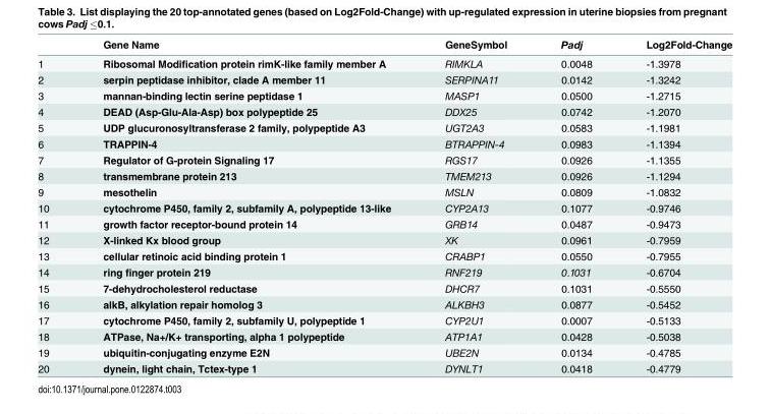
<table><thead><tr><td></td><td>Gene Name</td><td>GeneSymbol</td><td>Padj</td><td>Log2Fold-Change</td></tr></thead><tbody><tr><td>1</td><td>Ribosomal Modification protein rimK-like family member A</td><td>RIMKLA</td><td>0.0048</td><td>-1.3978</td></tr><tr><td>2</td><td>serpin peptidase inhibitor, clade A member 11</td><td>SERPINA11</td><td>0.0142</td><td>-1.3242</td></tr><tr><td>3</td><td>mannan-binding lectin serine peptidase 1</td><td>MASP1</td><td>0.0500</td><td>-1.2715</td></tr><tr><td>4</td><td>DEAD (Asp-Glu-Ala-Asp) box polypeptide 25</td><td>DDX25</td><td>0.0742</td><td>-1.2070</td></tr><tr><td>5</td><td>UDP glucuronosyltransferase 2 family, polypeptide A3</td><td>UGT2A3</td><td>0.0583</td><td>-1.1981</td></tr><tr><td>6</td><td>TRAPPIN-4</td><td>BTRAPPIN-4</td><td>0.0983</td><td>-1.1394</td></tr><tr><td>7</td><td>Regulator of G-protein Signaling 17</td><td>RGS17</td><td>0.0926</td><td>-1.1355</td></tr><tr><td>8</td><td>transmembrane protein 213</td><td>TMEM213</td><td>0.0926</td><td>-1.1294</td></tr><tr><td>9</td><td>mesothelin</td><td>MSLN</td><td>0.0809</td><td>-1.0832</td></tr><tr><td>10</td><td>cytochrome P450, family 2, subfamily A, polypeptide 13-like</td><td>CYP2A13</td><td>0.1077</td><td>-0.9746</td></tr><tr><td>11</td><td>growth factor receptor-bound protein 14</td><td>GRB14</td><td>0.0487</td><td>-0.9473</td></tr><tr><td>12</td><td>X-linked Kx blood group</td><td>XK</td><td>0.0961</td><td>-0.7959</td></tr><tr><td>13</td><td>cellular retinoic acid binding protein 1</td><td>CRABP1</td><td>0.0550</td><td>-0.7955</td></tr><tr><td>14</td><td>ring finger protein 219</td><td>RNF219</td><td>0.1031</td><td>-0.6704</td></tr><tr><td>15</td><td>7-dehydrocholesterol reductase</td><td>DHCR7</td><td>0.1031</td><td>-0.5550</td></tr><tr><td>16</td><td>alkB, alkylation repair homolog 3</td><td>ALKBH3</td><td>0.0877</td><td>-0.5452</td></tr><tr><td>17</td><td>cytochrome P450, family 2, subfamily U, polypeptide 1</td><td>CYP2U1</td><td>0.0007</td><td>-0.5133</td></tr><tr><td>18</td><td>ATPase, Na+/K+ transporting, alpha 1 polypeptide</td><td>ATP1A1</td><td>0.0428</td><td>-0.5038</td></tr><tr><td>19</td><td>ubiquitin-conjugating enzyme E2N</td><td>UBE2N</td><td>0.0134</td><td>-0.4785</td></tr><tr><td>20</td><td>dynein, light chain, Tctex-type 1</td><td>DYNLT1</td><td>0.0418</td><td>-0.4779</td></tr></tbody></table>